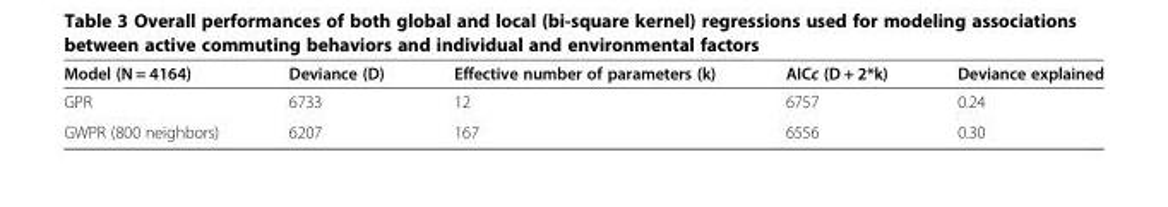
<table><thead><tr><td>Model (N = 4164)</td><td>Deviance (D)</td><td>Effective number of parameters (k)</td><td>AICc (D + 2*k)</td><td>Deviance explained</td></tr></thead><tbody><tr><td>GPR</td><td>6733</td><td>12</td><td>6757</td><td>0.24</td></tr><tr><td>GWPR (800 neighbors)</td><td>6207</td><td>167</td><td>6556</td><td>0.30</td></tr></tbody></table>